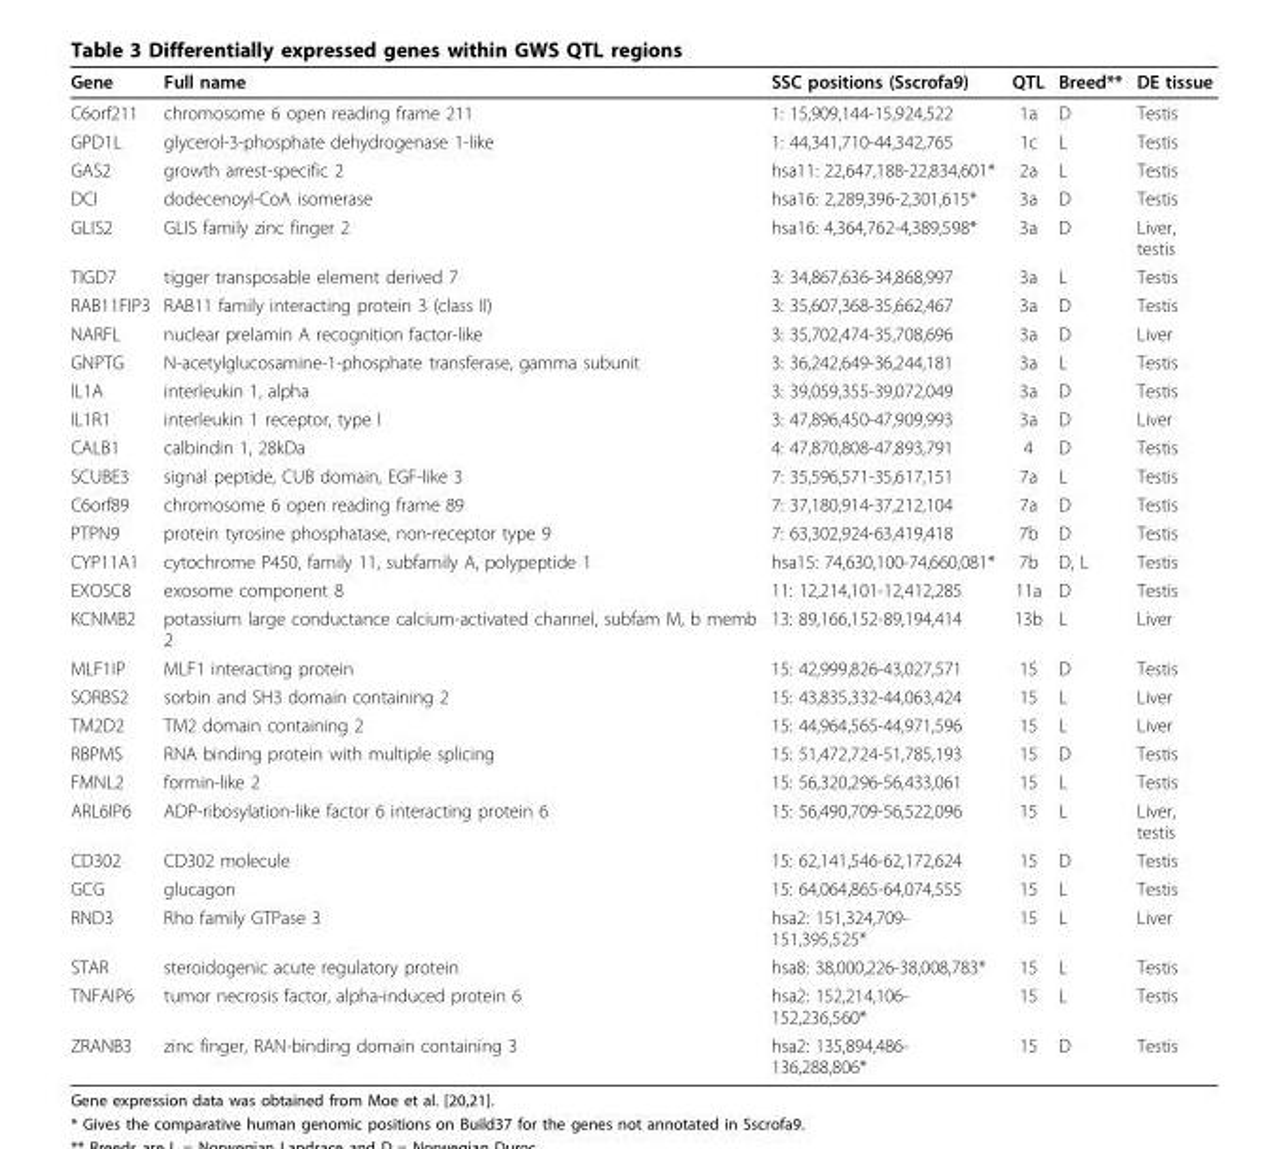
<table><thead><tr><td>Gene</td><td>Full name</td><td>SSC positions (Sscrofa9)</td><td>QTL</td><td>Breed**</td><td>DE tissue</td></tr></thead><tbody><tr><td>C6orf211</td><td>chromosome 6 open reading frame 211</td><td>1: 15,909,144-15,924,522</td><td>1a</td><td>D</td><td>Testis</td></tr><tr><td>GPD1L</td><td>glycerol-3-phosphate dehydrogenase 1-like</td><td>1: 44,341,710-44,342,765</td><td>1c</td><td>L</td><td>Testis</td></tr><tr><td>GAS2</td><td>growth arrest-specific 2</td><td>hsa11: 22,647,188-22,834,601*</td><td>2a</td><td>L</td><td>Testis</td></tr><tr><td>DCI</td><td>dodecenoyl-CoA isomerase</td><td>hsa16: 2,289,396-2,301,615*</td><td>3a</td><td>D</td><td>Testis</td></tr><tr><td>GLIS2</td><td>GLIS family zinc finger 2</td><td>hsa16: 4,364,762-4,389,598*</td><td>3a</td><td>D</td><td>Liver, testis</td></tr><tr><td>TIGD7</td><td>tigger transposable element derived 7</td><td>3: 34,867,636-34,868,997</td><td>3a</td><td>L</td><td>Testis</td></tr><tr><td>RAB11FIP3</td><td>RAB11 family interacting protein 3 (class II)</td><td>3: 35,607,368-35,662,467</td><td>3a</td><td>D</td><td>Testis</td></tr><tr><td>NARFL</td><td>nuclear prelamin A recognition factor-like</td><td>3: 35,702,474-35,708,696</td><td>3a</td><td>D</td><td>Liver</td></tr><tr><td>GNPTG</td><td>N-acetylglucosamine-1-phosphate transferase, gamma subunit</td><td>3: 36,242,649-36,244,181</td><td>3a</td><td>L</td><td>Testis</td></tr><tr><td>IL1A</td><td>interleukin 1, alpha</td><td>3: 39,059,355-39,072,049</td><td>3a</td><td>D</td><td>Testis</td></tr><tr><td>IL1R1</td><td>interleukin 1 receptor, type I</td><td>3: 47,896,450-47,909,993</td><td>3a</td><td>D</td><td>Liver</td></tr><tr><td>CALB1</td><td>calbindin 1, 28kDa</td><td>4: 47,870,808-47,893,791</td><td>4</td><td>D</td><td>Testis</td></tr><tr><td>SCUBE3</td><td>signal peptide, CUB domain, EGF-like 3</td><td>7: 35,596,571-35,617,151</td><td>7a</td><td>L</td><td>Testis</td></tr><tr><td>C6orf89</td><td>chromosome 6 open reading frame 89</td><td>7: 37,180,914-37,212,104</td><td>7a</td><td>D</td><td>Testis</td></tr><tr><td>PTPN9</td><td>protein tyrosine phosphatase, non-receptor type 9</td><td>7: 63,302,924-63,419,418</td><td>7b</td><td>D</td><td>Testis</td></tr><tr><td>CYP11A1</td><td>cytochrome P450, family 11, subfamily A, polypeptide 1</td><td>hsa15: 74,630,100-74,660,081*</td><td>7b</td><td>D, L</td><td>Testis</td></tr><tr><td>EXOSC8</td><td>exosome component 8</td><td>11: 12,214,101-12,412,285</td><td>11a</td><td>D</td><td>Testis</td></tr><tr><td>KCNMB2</td><td>potassium large conductance calcium-activated channel, subfam M, b memb 2</td><td>13: 89,166,152-89,194,414</td><td>13b</td><td>L</td><td>Liver</td></tr><tr><td>MLF1IP</td><td>MLF1 interacting protein</td><td>15: 42,999,826-43,027,571</td><td>15</td><td>D</td><td>Testis</td></tr><tr><td>SORBS2</td><td>sorbin and SH3 domain containing 2</td><td>15: 43,835,332-44,063,424</td><td>15</td><td>L</td><td>Liver</td></tr><tr><td>TM2D2</td><td>TM2 domain containing 2</td><td>15: 44,964,565-44,971,596</td><td>15</td><td>L</td><td>Liver</td></tr><tr><td>RBPMS</td><td>RNA binding protein with multiple splicing</td><td>15: 51,472,724-51,785,193</td><td>15</td><td>D</td><td>Testis</td></tr><tr><td>FMNL2</td><td>formin-like 2</td><td>15: 56,320,296-56,433,061</td><td>15</td><td>L</td><td>Testis</td></tr><tr><td>ARL6IP6</td><td>ADP-ribosylation-like factor 6 interacting protein 6</td><td>15: 56,490,709-56,522,096</td><td>15</td><td>L</td><td>Liver, testis</td></tr><tr><td>CD302</td><td>CD302 molecule</td><td>15: 62,141,546-62,172,624</td><td>15</td><td>D</td><td>Testis</td></tr><tr><td>GCG</td><td>glucagon</td><td>15: 64,064,865-64,074,555</td><td>15</td><td>L</td><td>Testis</td></tr><tr><td>RND3</td><td>Rho family GTPase 3</td><td>hsa2: 151,324,709- 151,395,525*</td><td>15</td><td>L</td><td>Liver</td></tr><tr><td>STAR</td><td>steroidogenic acute regulatory protein</td><td>hsa8: 38,000,226-38,008,783*</td><td>15</td><td>L</td><td>Testis</td></tr><tr><td>TNFAIP6</td><td>tumor necrosis factor, alpha-induced protein 6</td><td>hsa2: 152,214,106- 152,236,560*</td><td>15</td><td>L</td><td>Testis</td></tr><tr><td>ZRANB3</td><td>zinc finger, RAN-binding domain containing 3</td><td>hsa2: 135,894,486- 136,288,806*</td><td>15</td><td>D</td><td>Testis</td></tr></tbody></table>